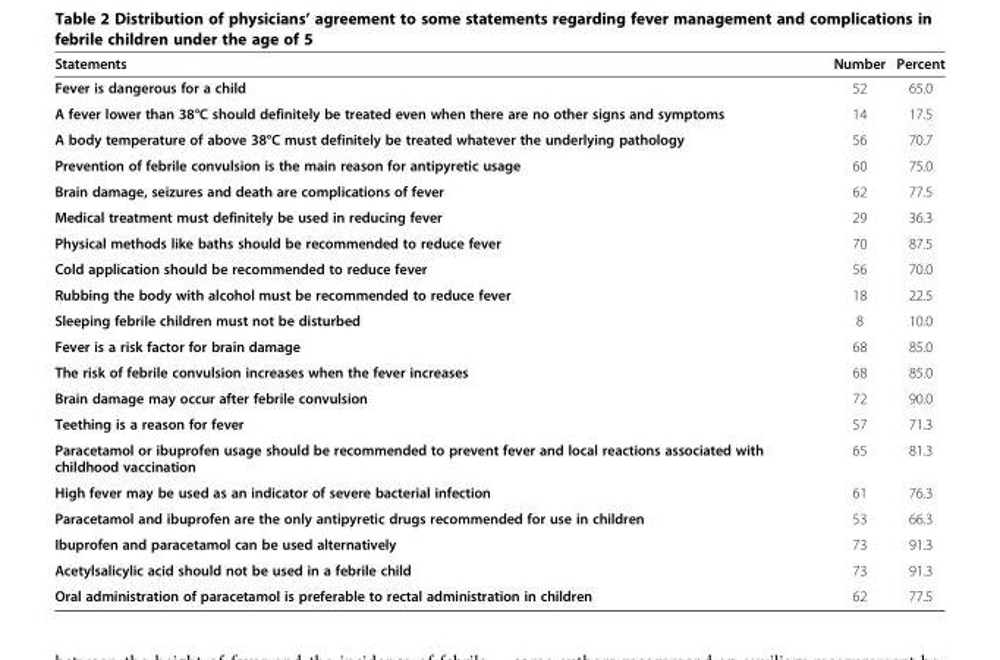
<table><thead><tr><td>Statements</td><td>Number</td><td>Percent</td></tr></thead><tbody><tr><td>Fever is dangerous for a child</td><td>52</td><td>65.0</td></tr><tr><td>A fever lower than 38°C should definitely be treated even when there are no other signs and symptoms</td><td>14</td><td>17.5</td></tr><tr><td>A body temperature of above 38°C must definitely be treated whatever the underlying pathology</td><td>56</td><td>70.7</td></tr><tr><td>Prevention of febrile convulsion is the main reason for antipyretic usage</td><td>60</td><td>75.0</td></tr><tr><td>Brain damage, seizures and death are complications of fever</td><td>62</td><td>77.5</td></tr><tr><td>Medical treatment must definitely be used in reducing fever</td><td>29</td><td>36.3</td></tr><tr><td>Physical methods like baths should be recommended to reduce fever</td><td>70</td><td>87.5</td></tr><tr><td>Cold application should be recommended to reduce fever</td><td>56</td><td>70.0</td></tr><tr><td>Rubbing the body with alcohol must be recommended to reduce fever</td><td>18</td><td>22.5</td></tr><tr><td>Sleeping febrile children must not be disturbed</td><td>8</td><td>10.0</td></tr><tr><td>Fever is a risk factor for brain damage</td><td>68</td><td>85.0</td></tr><tr><td>The risk of febrile convulsion increases when the fever increases</td><td>68</td><td>85.0</td></tr><tr><td>Brain damage may occur after febrile convulsion</td><td>72</td><td>90.0</td></tr><tr><td>Teething is a reason for fever</td><td>57</td><td>71.3</td></tr><tr><td>Paracetamol or ibuprofen usage should be recommended to prevent fever and local reactions associated with childhood vaccination</td><td>65</td><td>81.3</td></tr><tr><td>High fever may be used as an indicator of severe bacterial infection</td><td>61</td><td>76.3</td></tr><tr><td>Paracetamol and ibuprofen are the only antipyretic drugs recommended for use in children</td><td>53</td><td>66.3</td></tr><tr><td>Ibuprofen and paracetamol can be used alternatively</td><td>73</td><td>91.3</td></tr><tr><td>Acetylsalicylic acid should not be used in a febrile child</td><td>73</td><td>91.3</td></tr><tr><td>Oral administration of paracetamol is preferable to rectal administration in children</td><td>62</td><td>77.5</td></tr></tbody></table>